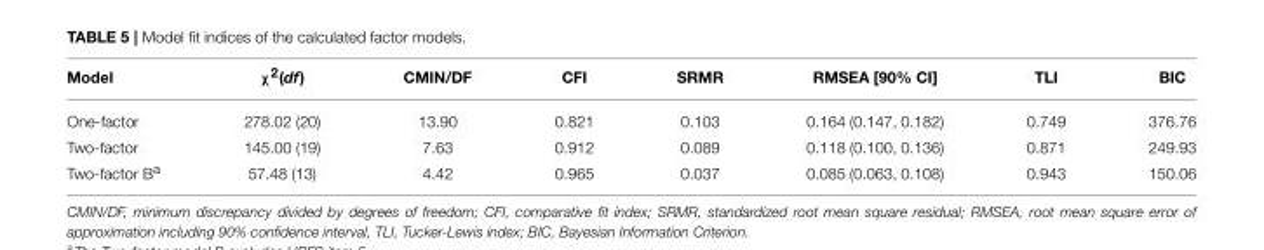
<table><thead><tr><td>Model</td><td>χ<sup>2</sup>(df)</td><td>CMIN/DF</td><td>CFI</td><td>SRMR</td><td>RMSEA [90% CI]</td><td>TLI</td><td>BIC</td></tr></thead><tbody><tr><td>One-factor</td><td>278.02 (20)</td><td>13.90</td><td>0.821</td><td>0.103</td><td>0.164 (0.147, 0.182)</td><td>0.749</td><td>376.76</td></tr><tr><td>Two-factor</td><td>145.00 (19)</td><td>7.63</td><td>0.912</td><td>0.089</td><td>0.118 (0.100, 0.136)</td><td>0.871</td><td>249.93</td></tr><tr><td>Two-factor B<sup>a</sup></td><td>57.48 (13)</td><td>4.42</td><td>0.965</td><td>0.037</td><td>0.085 (0.063, 0.108)</td><td>0.943</td><td>150.06</td></tr></tbody></table>